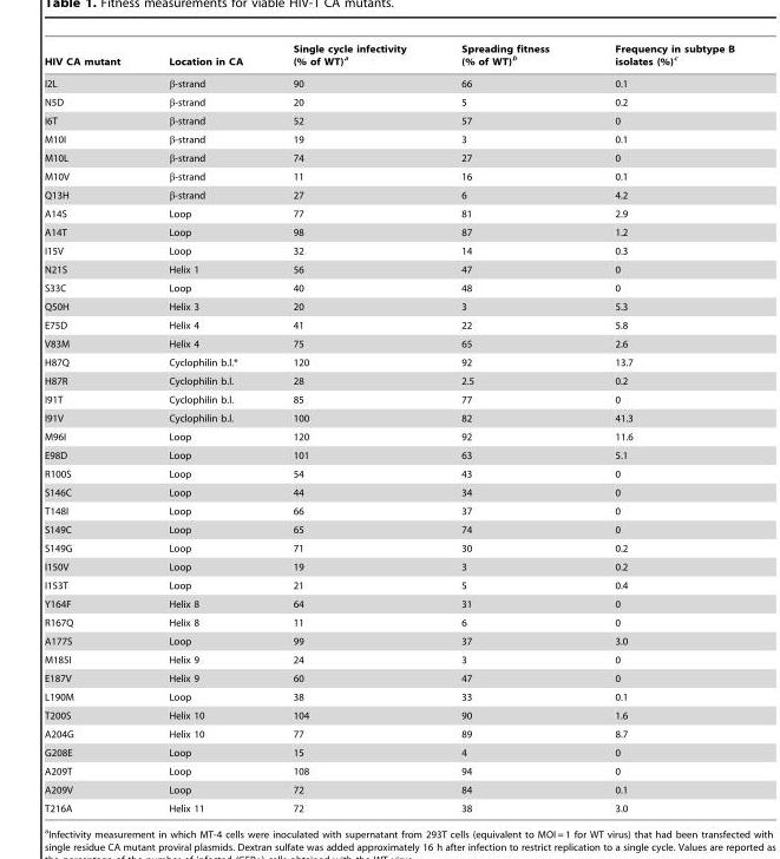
<table><thead><tr><td>HIV CA mutant</td><td>Location in CA</td><td>Single cycle infectivity (% of WT)<sup>a</sup></td><td>Spreading fitness (% of WT)<sup>b</sup></td><td>Frequency in subtype B isolates (%)<sup>c</sup></td></tr></thead><tbody><tr><td>I2L</td><td>β-strand</td><td>90</td><td>66</td><td>0.1</td></tr><tr><td>N5D</td><td>β-strand</td><td>20</td><td>5</td><td>0.2</td></tr><tr><td>I6T</td><td>β-strand</td><td>52</td><td>57</td><td>0</td></tr><tr><td>M10I</td><td>β-strand</td><td>19</td><td>3</td><td>0.1</td></tr><tr><td>M10L</td><td>β-strand</td><td>74</td><td>27</td><td>0</td></tr><tr><td>M10V</td><td>β-strand</td><td>11</td><td>16</td><td>0.1</td></tr><tr><td>Q13H</td><td>β-strand</td><td>27</td><td>6</td><td>4.2</td></tr><tr><td>A14S</td><td>Loop</td><td>77</td><td>81</td><td>2.9</td></tr><tr><td>A14T</td><td>Loop</td><td>98</td><td>87</td><td>1.2</td></tr><tr><td>I15V</td><td>Loop</td><td>32</td><td>14</td><td>0.3</td></tr><tr><td>N21S</td><td>Helix 1</td><td>56</td><td>47</td><td>0</td></tr><tr><td>S33C</td><td>Loop</td><td>40</td><td>48</td><td>0</td></tr><tr><td>Q50H</td><td>Helix 3</td><td>20</td><td>3</td><td>5.3</td></tr><tr><td>E75D</td><td>Helix 4</td><td>41</td><td>22</td><td>5.8</td></tr><tr><td>V83M</td><td>Helix 4</td><td>75</td><td>65</td><td>2.6</td></tr><tr><td>H87Q</td><td>Cyclophilin b.l.*</td><td>120</td><td>92</td><td>13.7</td></tr><tr><td>H87R</td><td>Cyclophilin b.l.</td><td>28</td><td>2.5</td><td>0.2</td></tr><tr><td>I91T</td><td>Cyclophilin b.l.</td><td>85</td><td>77</td><td>0</td></tr><tr><td>I91V</td><td>Cyclophilin b.l.</td><td>100</td><td>82</td><td>41.3</td></tr><tr><td>M96I</td><td>Loop</td><td>120</td><td>92</td><td>11.6</td></tr><tr><td>E98D</td><td>Loop</td><td>101</td><td>63</td><td>5.1</td></tr><tr><td>R100S</td><td>Loop</td><td>54</td><td>43</td><td>0</td></tr><tr><td>S146C</td><td>Loop</td><td>44</td><td>34</td><td>0</td></tr><tr><td>T148I</td><td>Loop</td><td>66</td><td>37</td><td>0</td></tr><tr><td>S149C</td><td>Loop</td><td>65</td><td>74</td><td>0</td></tr><tr><td>S149G</td><td>Loop</td><td>71</td><td>30</td><td>0.2</td></tr><tr><td>I150V</td><td>Loop</td><td>19</td><td>3</td><td>0.2</td></tr><tr><td>I153T</td><td>Loop</td><td>21</td><td>5</td><td>0.4</td></tr><tr><td>Y164F</td><td>Helix 8</td><td>64</td><td>31</td><td>0</td></tr><tr><td>R167Q</td><td>Helix 8</td><td>11</td><td>6</td><td>0</td></tr><tr><td>A177S</td><td>Loop</td><td>99</td><td>37</td><td>3.0</td></tr><tr><td>M185I</td><td>Helix 9</td><td>24</td><td>3</td><td>0</td></tr><tr><td>E187V</td><td>Helix 9</td><td>60</td><td>47</td><td>0</td></tr><tr><td>L190M</td><td>Loop</td><td>38</td><td>33</td><td>0.1</td></tr><tr><td>T200S</td><td>Helix 10</td><td>104</td><td>90</td><td>1.6</td></tr><tr><td>A204G</td><td>Helix 10</td><td>77</td><td>89</td><td>8.7</td></tr><tr><td>G208E</td><td>Loop</td><td>15</td><td>4</td><td>0</td></tr><tr><td>A209T</td><td>Loop</td><td>108</td><td>94</td><td>0</td></tr><tr><td>A209V</td><td>Loop</td><td>72</td><td>84</td><td>0.1</td></tr><tr><td>T216A</td><td>Helix 11</td><td>72</td><td>38</td><td>3.0</td></tr></tbody></table>